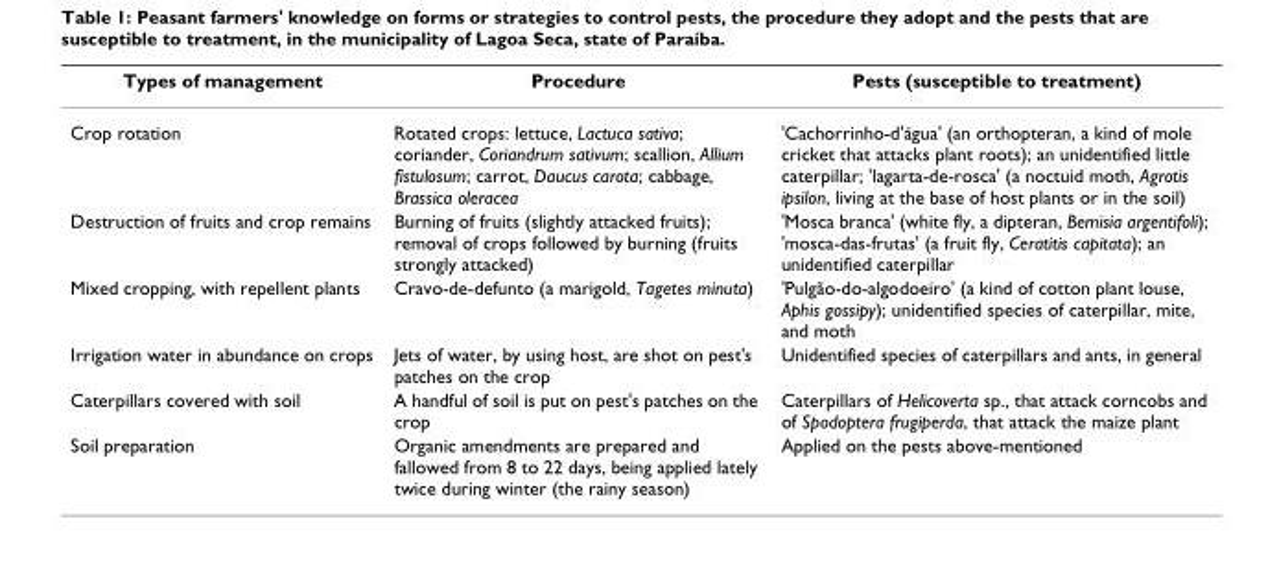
<table><thead><tr><td>Types of management</td><td>Procedure</td><td>Pests (susceptible to treatment)</td></tr></thead><tbody><tr><td>Crop rotation</td><td>Rotated crops: lettuce, Lactuca sativa; coriander, Coriandrum sativum; scallion, Allium fistulosum; carrot, Daucus carota; cabbage, Brassica oleracea</td><td>&#x27;Cachorrinho-d&#x27;água&#x27; (an orthopteran, a kind of mole cricket that attacks plant roots); an unidentified little caterpillar; &#x27;lagarta-de-rosca&#x27; (a noctuid moth, Agrotis ipsilon, living at the base of host plants or in the soil)</td></tr><tr><td>Destruction of fruits and crop remains</td><td>Burning of fruits (slightly attacked fruits); removal of crops followed by burning (fruits strongly attacked)</td><td>&#x27;Mosca branca&#x27; (white fly, a dipteran, Bemisia argentifoli); &#x27;mosca-das-frutas&#x27; (a fruit fly, Ceratitis capitata); an unidentified caterpillar</td></tr><tr><td>Mixed cropping, with repellent plants</td><td>Cravo-de-defunto (a marigold, Tagetes minuta)</td><td>&#x27;Pulgão-do-algodoeiro&#x27; (a kind of cotton plant louse, Aphis gossipy); unidentified species of caterpillar, mite, and moth</td></tr><tr><td>Irrigation water in abundance on crops</td><td>Jets of water, by using host, are shot on pest&#x27;s patches on the crop</td><td>Unidentified species of caterpillars and ants, in general</td></tr><tr><td>Caterpillars covered with soil</td><td>A handful of soil is put on pest&#x27;s patches on the crop</td><td>Caterpillars of Helicoverta sp., that attack corncobs and of Spodoptera frugiperda, that attack the maize plant</td></tr><tr><td>Soil preparation</td><td>Organic amendments are prepared and fallowed from 8 to 22 days, being applied lately twice during winter (the rainy season)</td><td>Applied on the pests above-mentioned</td></tr></tbody></table>